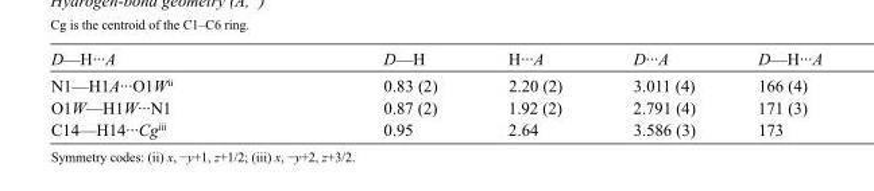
<table><tbody><tr><td>D—H···A</td><td>D—H</td><td>H···A</td><td>D···A</td><td>D—H···A</td></tr><tr><td>N1—H1A···O1W<sup>ii</sup></td><td>0.83 (2)</td><td>2.20 (2)</td><td>3.011 (4)</td><td>166 (4)</td></tr><tr><td>O1W—H1W···N1</td><td>0.87 (2)</td><td>1.92 (2)</td><td>2.791 (4)</td><td>171 (3)</td></tr><tr><td>C14—H14···Cg<sup>iii</sup></td><td>0.95</td><td>2.64</td><td>3.586 (3)</td><td>173</td></tr></tbody></table>